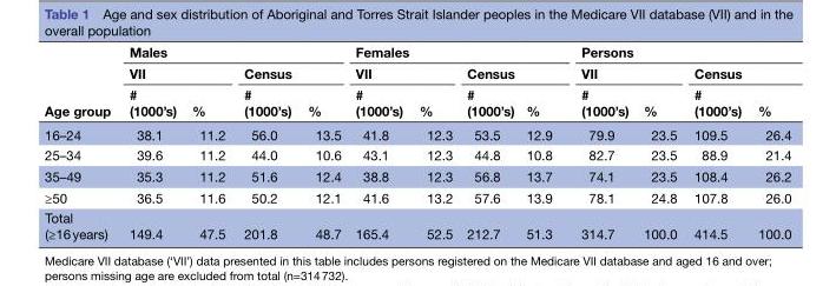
<table><thead><tr><td rowspan="3">Age group</td><td colspan="4">Males</td><td colspan="4">Females</td><td colspan="4">Persons</td></tr><tr><td colspan="2">VII</td><td colspan="2">Census</td><td colspan="2">VII</td><td colspan="2">Census</td><td colspan="2">VII</td><td colspan="2">Census</td></tr><tr><td># (1000’s)</td><td>%</td><td># (1000’s)</td><td>%</td><td># (1000’s)</td><td>%</td><td># (1000’s)</td><td>%</td><td># (1000’s)</td><td>%</td><td># (1000’s)</td><td>%</td></tr></thead><tbody><tr><td>16–24</td><td>38.1</td><td>11.2</td><td>56.0</td><td>13.5</td><td>41.8</td><td>12.3</td><td>53.5</td><td>12.9</td><td>79.9</td><td>23.5</td><td>109.5</td><td>26.4</td></tr><tr><td>25–34</td><td>39.6</td><td>11.2</td><td>44.0</td><td>10.6</td><td>43.1</td><td>12.3</td><td>44.8</td><td>10.8</td><td>82.7</td><td>23.5</td><td>88.9</td><td>21.4</td></tr><tr><td>35–49</td><td>35.3</td><td>11.2</td><td>51.6</td><td>12.4</td><td>38.8</td><td>12.3</td><td>56.8</td><td>13.7</td><td>74.1</td><td>23.5</td><td>108.4</td><td>26.2</td></tr><tr><td>≥50</td><td>36.5</td><td>11.6</td><td>50.2</td><td>12.1</td><td>41.6</td><td>13.2</td><td>57.6</td><td>13.9</td><td>78.1</td><td>24.8</td><td>107.8</td><td>26.0</td></tr><tr><td>Total (≥16 years)</td><td>149.4</td><td>47.5</td><td>201.8</td><td>48.7</td><td>165.4</td><td>52.5</td><td>212.7</td><td>51.3</td><td>314.7</td><td>100.0</td><td>414.5</td><td>100.0</td></tr></tbody></table>